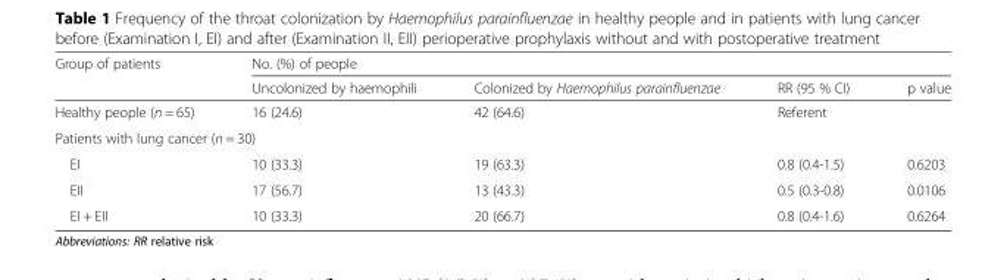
<table><thead><tr><td rowspan="2">Group of patients</td><td colspan="4">No. (%) of people</td></tr><tr><td>Uncolonized by haemophili</td><td>Colonized by Haemophilus parainfluenzae</td><td>RR (95 % CI)</td><td>p value</td></tr></thead><tbody><tr><td>Healthy people (n = 65)</td><td>16 (24.6)</td><td>42 (64.6)</td><td>Referent</td><td></td></tr><tr><td colspan="5">Patients with lung cancer (n = 30)</td></tr><tr><td>EI</td><td>10 (33.3)</td><td>19 (63.3)</td><td>0.8 (0.4-1.5)</td><td>0.6203</td></tr><tr><td>EII</td><td>17 (56.7)</td><td>13 (43.3)</td><td>0.5 (0.3-0.8)</td><td>0.0106</td></tr><tr><td>EI + EII</td><td>10 (33.3)</td><td>20 (66.7)</td><td>0.8 (0.4-1.6)</td><td>0.6264</td></tr></tbody></table>